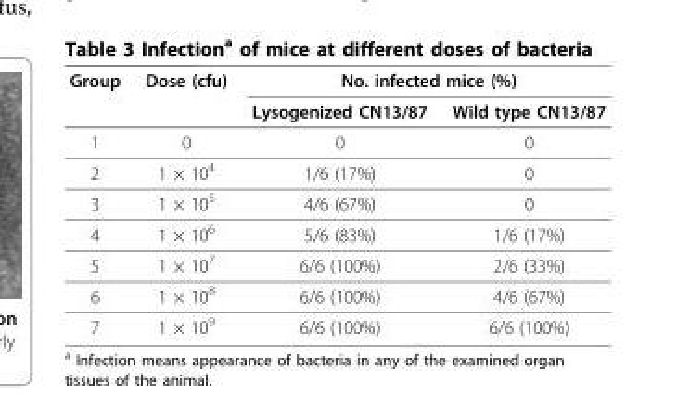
<table><thead><tr><td rowspan="2">Group</td><td rowspan="2">Dose (cfu)</td><td colspan="2">No. infected mice (%)</td></tr><tr><td>Lysogenized CN13/87</td><td>Wild type CN13/87</td></tr></thead><tbody><tr><td>1</td><td>0</td><td>0</td><td>0</td></tr><tr><td>2</td><td>1 × 10<sup>4</sup></td><td>1/6 (17%)</td><td>0</td></tr><tr><td>3</td><td>1 × 10<sup>5</sup></td><td>4/6 (67%)</td><td>0</td></tr><tr><td>4</td><td>1 × 10<sup>6</sup></td><td>5/6 (83%)</td><td>1/6 (17%)</td></tr><tr><td>5</td><td>1 × 10<sup>7</sup></td><td>6/6 (100%)</td><td>2/6 (33%)</td></tr><tr><td>6</td><td>1 × 10<sup>8</sup></td><td>6/6 (100%)</td><td>4/6 (67%)</td></tr><tr><td>7</td><td>1 × 10<sup>9</sup></td><td>6/6 (100%)</td><td>6/6 (100%)</td></tr></tbody></table>